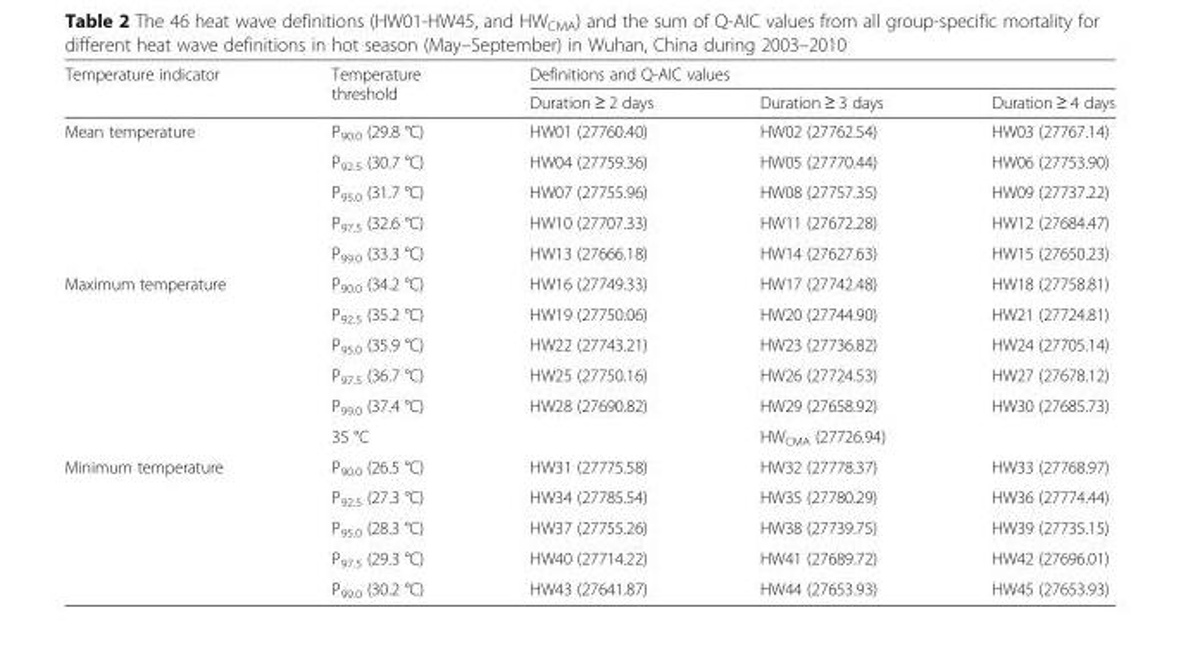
<table><thead><tr><td rowspan="2">Temperature indicator</td><td rowspan="2">Temperature threshold</td><td colspan="3">Definitions and Q-AIC values</td></tr><tr><td>Duration ≥ 2 days</td><td>Duration ≥ 3 days</td><td>Duration ≥ 4 days</td></tr></thead><tbody><tr><td rowspan="5">Mean temperature</td><td>P<sub>90.0</sub> (29.8 °C)</td><td>HW01 (27760.40)</td><td>HW02 (27762.54)</td><td>HW03 (27767.14)</td></tr><tr><td>P<sub>92.5</sub> (30.7 °C)</td><td>HW04 (27759.36)</td><td>HW05 (27770.44)</td><td>HW06 (27753.90)</td></tr><tr><td>P<sub>95.0</sub> (31.7 °C)</td><td>HW07 (27755.96)</td><td>HW08 (27757.35)</td><td>HW09 (27737.22)</td></tr><tr><td>P<sub>97.5</sub> (32.6 °C)</td><td>HW10 (27707.33)</td><td>HW11 (27672.28)</td><td>HW12 (27684.47)</td></tr><tr><td>P<sub>99.0</sub> (33.3 °C)</td><td>HW13 (27666.18)</td><td>HW14 (27627.63)</td><td>HW15 (27650.23)</td></tr><tr><td rowspan="6">Maximum temperature</td><td>P<sub>90.0</sub> (34.2 °C)</td><td>HW16 (27749.33)</td><td>HW17 (27742.48)</td><td>HW18 (27758.81)</td></tr><tr><td>P<sub>92.5</sub> (35.2 °C)</td><td>HW19 (27750.06)</td><td>HW20 (27744.90)</td><td>HW21 (27724.81)</td></tr><tr><td>P<sub>95.0</sub> (35.9 °C)</td><td>HW22 (27743.21)</td><td>HW23 (27736.82)</td><td>HW24 (27705.14)</td></tr><tr><td>P<sub>97.5</sub> (36.7 °C)</td><td>HW25 (27750.16)</td><td>HW26 (27724.53)</td><td>HW27 (27678.12)</td></tr><tr><td>P<sub>99.0</sub> (37.4 °C)</td><td>HW28 (27690.82)</td><td>HW29 (27658.92)</td><td>HW30 (27685.73)</td></tr><tr><td>35 °C</td><td></td><td>HW<sub>CMA</sub> (27726.94)</td><td></td></tr><tr><td rowspan="5">Minimum temperature</td><td>P<sub>90.0</sub> (26.5 °C)</td><td>HW31 (27775.58)</td><td>HW32 (27778.37)</td><td>HW33 (27768.97)</td></tr><tr><td>P<sub>92.5</sub> (27.3 °C)</td><td>HW34 (27785.54)</td><td>HW35 (27780.29)</td><td>HW36 (27774.44)</td></tr><tr><td>P<sub>95.0</sub> (28.3 °C)</td><td>HW37 (27755.26)</td><td>HW38 (27739.75)</td><td>HW39 (27735.15)</td></tr><tr><td>P<sub>97.5</sub> (29.3 °C)</td><td>HW40 (27714.22)</td><td>HW41 (27689.72)</td><td>HW42 (27696.01)</td></tr><tr><td>P<sub>99.0</sub> (30.2 °C)</td><td>HW43 (27641.87)</td><td>HW44 (27653.93)</td><td>HW45 (27653.93)</td></tr></tbody></table>